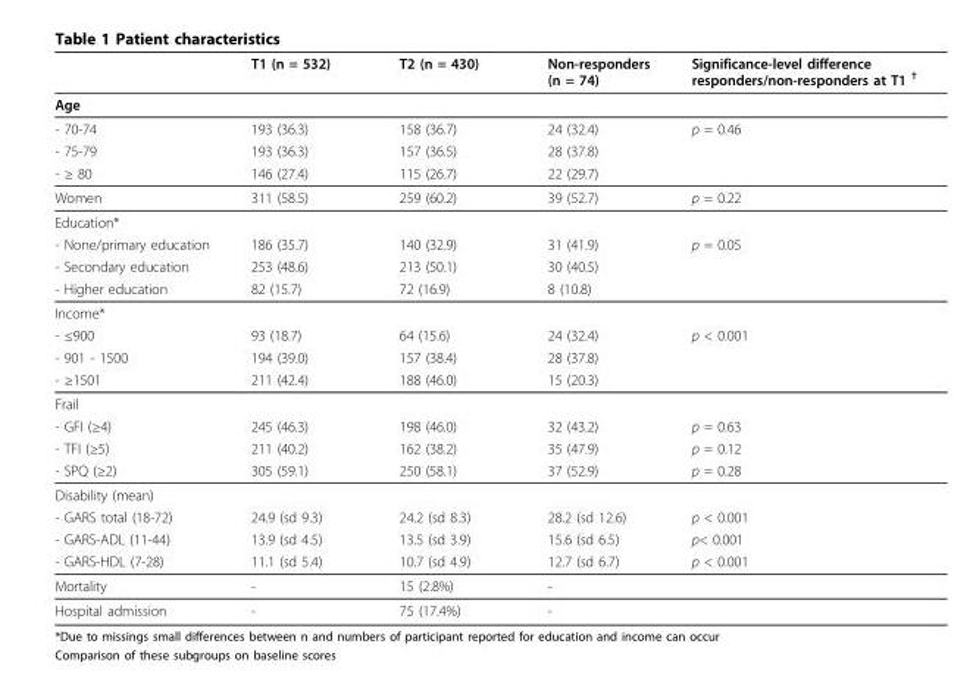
<table><thead><tr><td></td><td>T1 (n = 532)</td><td>T2 (n = 430)</td><td>Non-responders (n = 74)</td><td>Significance-level difference responders/non-responders at T1 <sup>†</sup></td></tr></thead><tbody><tr><td colspan="5">Age</td></tr><tr><td>- 70-74</td><td>193 (36.3)</td><td>158 (36.7)</td><td>24 (32.4)</td><td>p = 0.46</td></tr><tr><td>- 75-79</td><td>193 (36.3)</td><td>157 (36.5)</td><td>28 (37.8)</td><td></td></tr><tr><td>- ≥ 80</td><td>146 (27.4)</td><td>115 (26.7)</td><td>22 (29.7)</td><td></td></tr><tr><td>Women</td><td>311 (58.5)</td><td>259 (60.2)</td><td>39 (52.7)</td><td>p = 0.22</td></tr><tr><td colspan="5">Education*</td></tr><tr><td>- None/primary education</td><td>186 (35.7)</td><td>140 (32.9)</td><td>31 (41.9)</td><td>p = 0.05</td></tr><tr><td>- Secondary education</td><td>253 (48.6)</td><td>213 (50.1)</td><td>30 (40.5)</td><td></td></tr><tr><td>- Higher education</td><td>82 (15.7)</td><td>72 (16.9)</td><td>8 (10.8)</td><td></td></tr><tr><td colspan="5">Income*</td></tr><tr><td>- ≤900</td><td>93 (18.7)</td><td>64 (15.6)</td><td>24 (32.4)</td><td>p &lt; 0.001</td></tr><tr><td>- 901 - 1500</td><td>194 (39.0)</td><td>157 (38.4)</td><td>28 (37.8)</td><td></td></tr><tr><td>- ≥1501</td><td>211 (42.4)</td><td>188 (46.0)</td><td>15 (20.3)</td><td></td></tr><tr><td colspan="5">Frail</td></tr><tr><td>- GFI (≥4)</td><td>245 (46.3)</td><td>198 (46.0)</td><td>32 (43.2)</td><td>p = 0.63</td></tr><tr><td>- TFI (≥5)</td><td>211 (40.2)</td><td>162 (38.2)</td><td>35 (47.9)</td><td>p = 0.12</td></tr><tr><td>- SPQ (≥2)</td><td>305 (59.1)</td><td>250 (58.1)</td><td>37 (52.9)</td><td>p = 0.28</td></tr><tr><td colspan="5">Disability (mean)</td></tr><tr><td>- GARS total (18-72)</td><td>24.9 (sd 9.3)</td><td>24.2 (sd 8.3)</td><td>28.2 (sd 12.6)</td><td>p &lt; 0.001</td></tr><tr><td>- GARS-ADL (11-44)</td><td>13.9 (sd 4.5)</td><td>13.5 (sd 3.9)</td><td>15.6 (sd 6.5)</td><td>p&lt; 0.001</td></tr><tr><td>- GARS-HDL (7-28)</td><td>11.1 (sd 5.4)</td><td>10.7 (sd 4.9)</td><td>12.7 (sd 6.7)</td><td>p &lt; 0.001</td></tr><tr><td>Mortality</td><td>-</td><td>15 (2.8%)</td><td>-</td><td></td></tr><tr><td>Hospital admission</td><td>-</td><td>75 (17.4%)</td><td>-</td><td></td></tr></tbody></table>